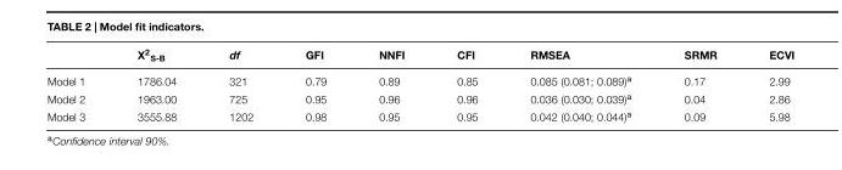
<table><thead><tr><td></td><td>X<sup>2</sup><sub>S-B</sub></td><td>df</td><td>GFI</td><td>NNFI</td><td>CFI</td><td>RMSEA</td><td>SRMR</td><td>ECVI</td></tr></thead><tbody><tr><td>Model 1</td><td>1786.04</td><td>321</td><td>0.79</td><td>0.89</td><td>0.85</td><td>0.085 (0.081; 0.089)<sup>a</sup></td><td>0.17</td><td>2.99</td></tr><tr><td>Model 2</td><td>1963.00</td><td>725</td><td>0.95</td><td>0.96</td><td>0.96</td><td>0.036 (0.030; 0.039)<sup>a</sup></td><td>0.04</td><td>2.86</td></tr><tr><td>Model 3</td><td>3555.88</td><td>1202</td><td>0.98</td><td>0.95</td><td>0.95</td><td>0.042 (0.040; 0.044)<sup>a</sup></td><td>0.09</td><td>5.98</td></tr></tbody></table>